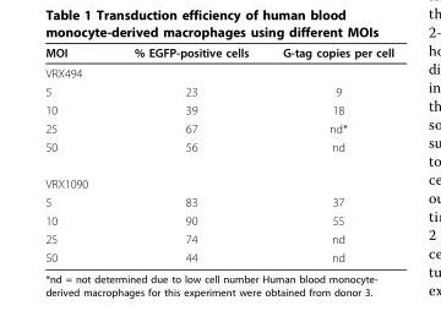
<table><thead><tr><td>MOI</td><td>% EGFP-positive cells</td><td>G-tag copies per cell</td></tr></thead><tbody><tr><td colspan="3">VRX494</td></tr><tr><td>5</td><td>23</td><td>9</td></tr><tr><td>10</td><td>39</td><td>18</td></tr><tr><td>25</td><td>67</td><td>nd*</td></tr><tr><td>50</td><td>56</td><td>nd</td></tr><tr><td colspan="3">VRX1090</td></tr><tr><td>5</td><td>83</td><td>37</td></tr><tr><td>10</td><td>90</td><td>55</td></tr><tr><td>25</td><td>74</td><td>nd</td></tr><tr><td>50</td><td>44</td><td>nd</td></tr></tbody></table>